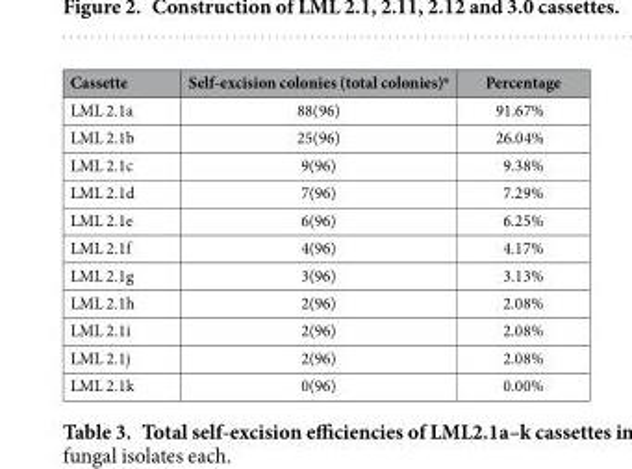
<table><thead><tr><td>Cassette</td><td>Self-excision colonies (total colonies)<sup>a</sup></td><td>Percentage</td></tr></thead><tbody><tr><td>LML 2.1a</td><td>88(96)</td><td>91.67%</td></tr><tr><td>LML 2.1b</td><td>25(96)</td><td>26.04%</td></tr><tr><td>LML 2.1c</td><td>9(96)</td><td>9.38%</td></tr><tr><td>LML 2.1d</td><td>7(96)</td><td>7.29%</td></tr><tr><td>LML 2.1e</td><td>6(96)</td><td>6.25%</td></tr><tr><td>LML 2.1f</td><td>4(96)</td><td>4.17%</td></tr><tr><td>LML 2.1g</td><td>3(96)</td><td>3.13%</td></tr><tr><td>LML 2.1h</td><td>2(96)</td><td>2.08%</td></tr><tr><td>LML 2.1i</td><td>2(96)</td><td>2.08%</td></tr><tr><td>LML 2.1j</td><td>2(96)</td><td>2.08%</td></tr><tr><td>LML 2.1k</td><td>0(96)</td><td>0.00%</td></tr></tbody></table>